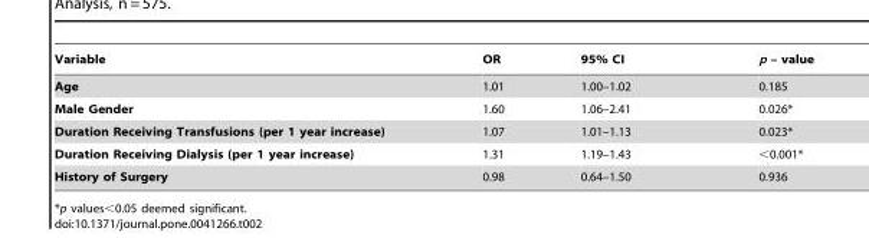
<table><thead><tr><td>Variable</td><td>OR</td><td>95% CI</td><td>p – value</td></tr></thead><tbody><tr><td>Age</td><td>1.01</td><td>1.00–1.02</td><td>0.185</td></tr><tr><td>Male Gender</td><td>1.60</td><td>1.06–2.41</td><td>0.026*</td></tr><tr><td>Duration Receiving Transfusions (per 1 year increase)</td><td>1.07</td><td>1.01–1.13</td><td>0.023*</td></tr><tr><td>Duration Receiving Dialysis (per 1 year increase)</td><td>1.31</td><td>1.19–1.43</td><td>&lt;0.001*</td></tr><tr><td>History of Surgery</td><td>0.98</td><td>0.64–1.50</td><td>0.936</td></tr></tbody></table>